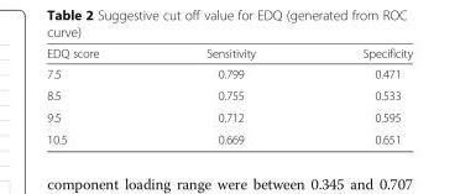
<table><thead><tr><td>EDQ score</td><td>Sensitivity</td><td>Specificity</td></tr></thead><tbody><tr><td>7.5</td><td>0.799</td><td>0.471</td></tr><tr><td>8.5</td><td>0.755</td><td>0.533</td></tr><tr><td>9.5</td><td>0.712</td><td>0.595</td></tr><tr><td>10.5</td><td>0.669</td><td>0.651</td></tr></tbody></table>